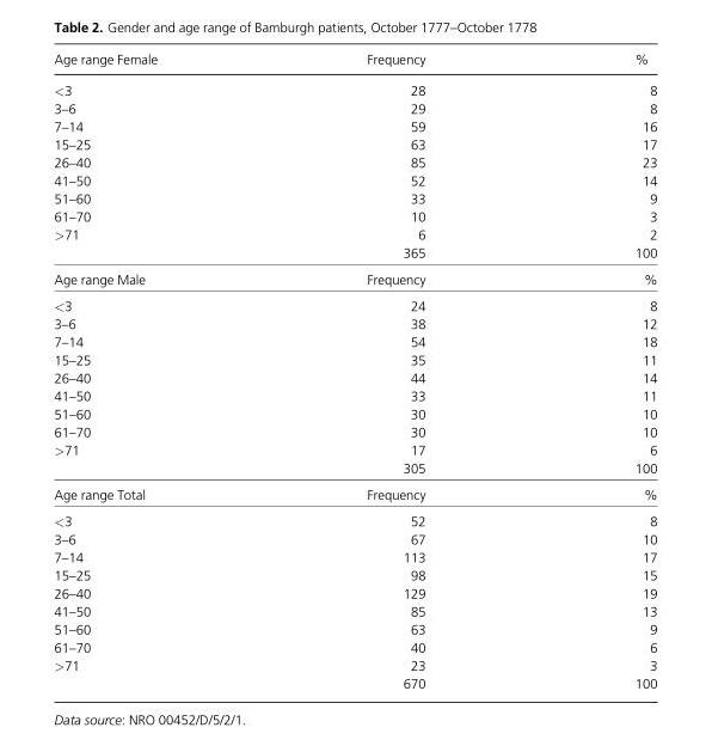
<table><thead><tr><td>Age range Female</td><td>Frequency</td><td>%</td></tr></thead><tbody><tr><td>&lt;3</td><td>28</td><td>8</td></tr><tr><td>3–6</td><td>29</td><td>8</td></tr><tr><td>7–14</td><td>59</td><td>16</td></tr><tr><td>15–25</td><td>63</td><td>17</td></tr><tr><td>26–40</td><td>85</td><td>23</td></tr><tr><td>41–50</td><td>52</td><td>14</td></tr><tr><td>51–60</td><td>33</td><td>9</td></tr><tr><td>61–70</td><td>10</td><td>3</td></tr><tr><td rowspan="2">&gt;71</td><td>6</td><td>2</td></tr><tr><td>365</td><td>100</td></tr><tr><td>Age range Male</td><td>Frequency</td><td>%</td></tr><tr><td>&lt;3</td><td>24</td><td>8</td></tr><tr><td>3–6</td><td>38</td><td>12</td></tr><tr><td>7–14</td><td>54</td><td>18</td></tr><tr><td>15–25</td><td>35</td><td>11</td></tr><tr><td>26–40</td><td>44</td><td>14</td></tr><tr><td>41–50</td><td>33</td><td>11</td></tr><tr><td>51–60</td><td>30</td><td>10</td></tr><tr><td>61–70</td><td>30</td><td>10</td></tr><tr><td rowspan="2">&gt;71</td><td>17</td><td>6</td></tr><tr><td>305</td><td>100</td></tr><tr><td>Age range Total</td><td>Frequency</td><td>%</td></tr><tr><td>&lt;3</td><td>52</td><td>8</td></tr><tr><td>3–6</td><td>67</td><td>10</td></tr><tr><td>7–14</td><td>113</td><td>17</td></tr><tr><td>15–25</td><td>98</td><td>15</td></tr><tr><td>26–40</td><td>129</td><td>19</td></tr><tr><td>41–50</td><td>85</td><td>13</td></tr><tr><td>51–60</td><td>63</td><td>9</td></tr><tr><td>61–70</td><td>40</td><td>6</td></tr><tr><td rowspan="2">&gt;71</td><td>23</td><td>3</td></tr><tr><td>670</td><td>100</td></tr></tbody></table>